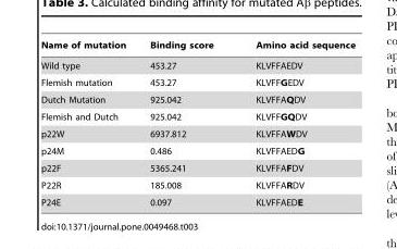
<table><thead><tr><td>Name of mutation</td><td>Binding score</td><td>Amino acid sequence</td></tr></thead><tbody><tr><td>Wild type</td><td>453.27</td><td>KLVFFAEDV</td></tr><tr><td>Flemish mutation</td><td>453.27</td><td>KLVFFGEDV</td></tr><tr><td>Dutch Mutation</td><td>925.042</td><td>KLVFFAQDV</td></tr><tr><td>Flemish and Dutch</td><td>925.042</td><td>KLVFFGQDV</td></tr><tr><td>p22W</td><td>6937.812</td><td>KLVFFAWDV</td></tr><tr><td>p24M</td><td>0.486</td><td>KLVFFAEDG</td></tr><tr><td>p22F</td><td>5365.241</td><td>KLVFFAFDV</td></tr><tr><td>P22R</td><td>185.008</td><td>KLVFFARDV</td></tr><tr><td>P24E</td><td>0.097</td><td>KLVFFAEDE</td></tr></tbody></table>